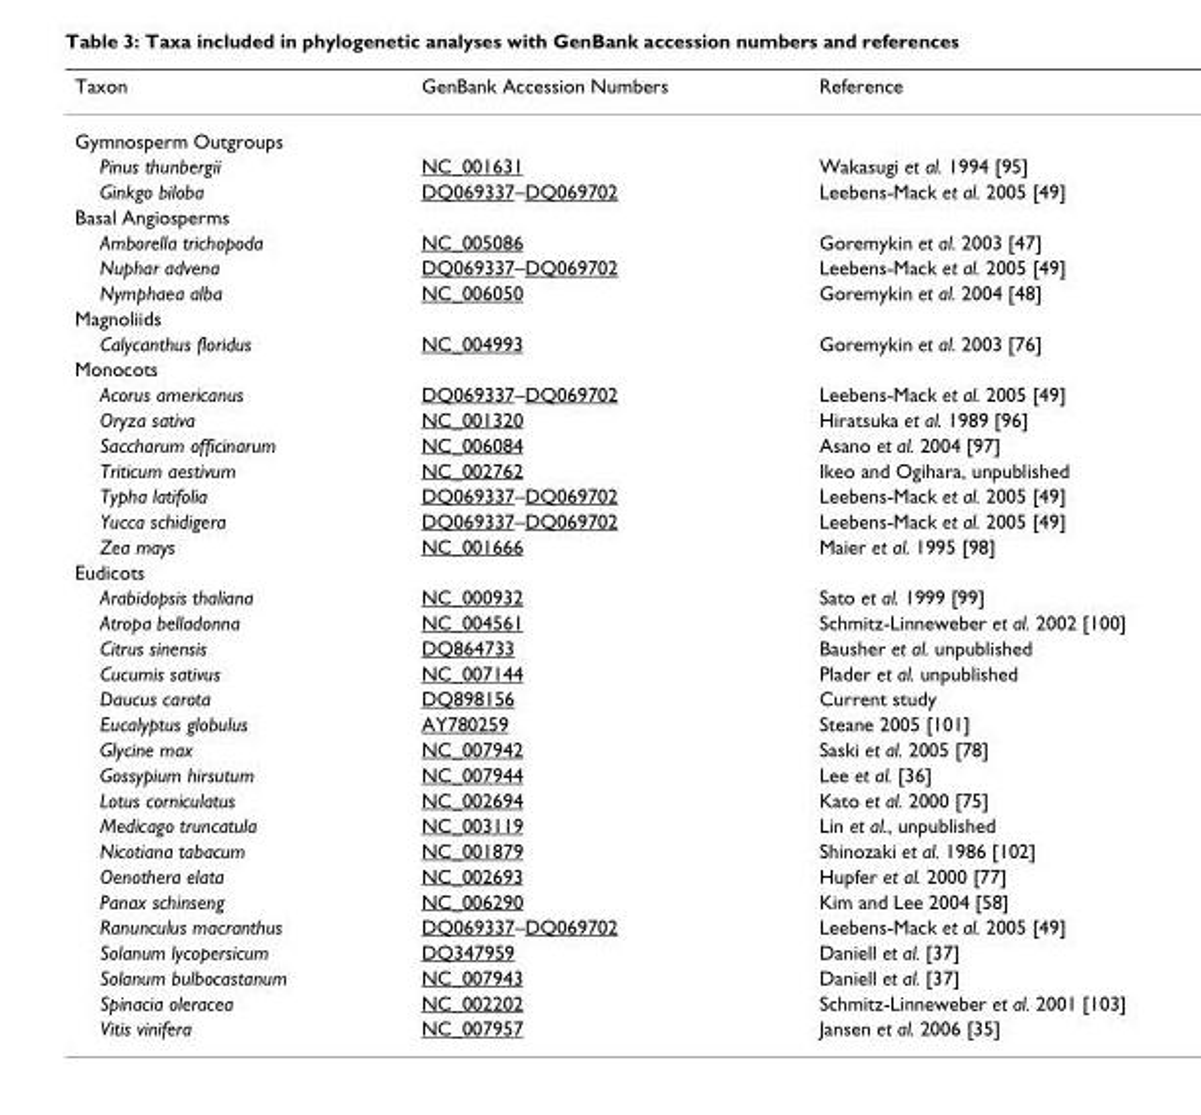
<table><thead><tr><td>Taxon</td><td>GenBank Accession Numbers</td><td>Reference</td></tr></thead><tbody><tr><td colspan="3">Gymnosperm Outgroups</td></tr><tr><td>Pinus thunbergii</td><td>NC_001631</td><td>Wakasugi et al. 1994 [95]</td></tr><tr><td>Ginkgo biloba</td><td>DQ069337–DQ069702</td><td>Leebens-Mack et al. 2005 [49]</td></tr><tr><td colspan="3">Basal Angiosperms</td></tr><tr><td>Amborella trichopoda</td><td>NC_005086</td><td>Goremykin et al. 2003 [47]</td></tr><tr><td>Nuphar advena</td><td>DQ069337–DQ069702</td><td>Leebens-Mack et al. 2005 [49]</td></tr><tr><td>Nymphaea alba</td><td>NC_006050</td><td>Goremykin et al. 2004 [48]</td></tr><tr><td colspan="3">Magnoliids</td></tr><tr><td>Calycanthus floridus</td><td>NC_004993</td><td>Goremykin et al. 2003 [76]</td></tr><tr><td colspan="3">Monocots</td></tr><tr><td>Acorus americanus</td><td>DQ069337–DQ069702</td><td>Leebens-Mack et al. 2005 [49]</td></tr><tr><td>Oryza sativa</td><td>NC_001320</td><td>Hiratsuka et al. 1989 [96]</td></tr><tr><td>Saccharum officinarum</td><td>NC_006084</td><td>Asano et al. 2004 [97]</td></tr><tr><td>Triticum aestivum</td><td>NC_002762</td><td>Ikeo and Ogihara, unpublished</td></tr><tr><td>Typha latifolia</td><td>DQ069337–DQ069702</td><td>Leebens-Mack et al. 2005 [49]</td></tr><tr><td>Yucca schidigera</td><td>DQ069337–DQ069702</td><td>Leebens-Mack et al. 2005 [49]</td></tr><tr><td>Zea mays</td><td>NC_001666</td><td>Maier et al. 1995 [98]</td></tr><tr><td colspan="3">Eudicots</td></tr><tr><td>Arabidopsis thaliana</td><td>NC_000932</td><td>Sato et al. 1999 [99]</td></tr><tr><td>Atropa belladonna</td><td>NC_004561</td><td>Schmitz-Linneweber et al. 2002 [100]</td></tr><tr><td>Citrus sinensis</td><td>DQ864733</td><td>Bausher et al. unpublished</td></tr><tr><td>Cucumis sativus</td><td>NC_007144</td><td>Plader et al. unpublished</td></tr><tr><td>Daucus carota</td><td>DQ898156</td><td>Current study</td></tr><tr><td>Eucalyptus globulus</td><td>AY780259</td><td>Steane 2005 [101]</td></tr><tr><td>Glycine max</td><td>NC_007942</td><td>Saski et al. 2005 [78]</td></tr><tr><td>Gossypium hirsutum</td><td>NC_007944</td><td>Lee et al. [36]</td></tr><tr><td>Lotus corniculatus</td><td>NC_002694</td><td>Kato et al. 2000 [75]</td></tr><tr><td>Medicago truncatula</td><td>NC_003119</td><td>Lin et al., unpublished</td></tr><tr><td>Nicotiana tabacum</td><td>NC_001879</td><td>Shinozaki et al. 1986 [102]</td></tr><tr><td>Oenothera elata</td><td>NC_002693</td><td>Hupfer et al. 2000 [77]</td></tr><tr><td>Panax schinseng</td><td>NC_006290</td><td>Kim and Lee 2004 [58]</td></tr><tr><td>Ranunculus macranthus</td><td>DQ069337–DQ069702</td><td>Leebens-Mack et al. 2005 [49]</td></tr><tr><td>Solanum lycopersicum</td><td>DQ347959</td><td>Daniell et al. [37]</td></tr><tr><td>Solanum bulbocastanum</td><td>NC_007943</td><td>Daniell et al. [37]</td></tr><tr><td>Spinacia oleracea</td><td>NC_002202</td><td>Schmitz-Linneweber et al. 2001 [103]</td></tr><tr><td>Vitis vinifera</td><td>NC_007957</td><td>Jansen et al. 2006 [35]</td></tr></tbody></table>